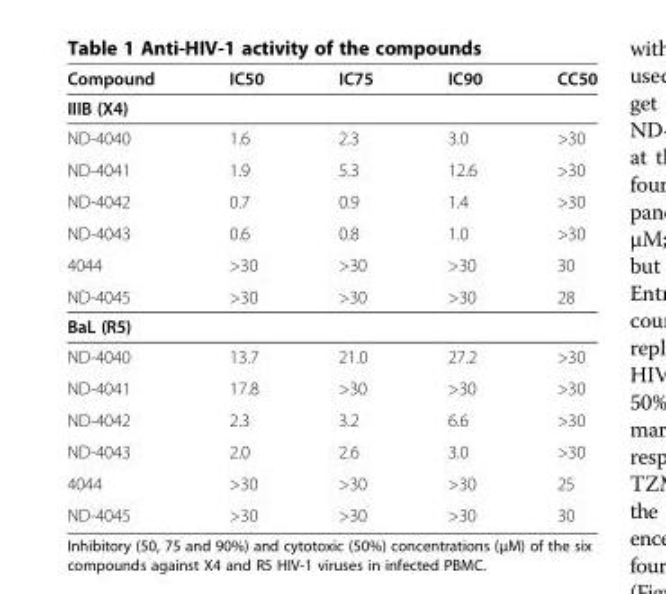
<table><thead><tr><td>Compound</td><td>IC50</td><td>IC75</td><td>IC90</td><td>CC50</td></tr></thead><tbody><tr><td colspan="5">IIIB (X4)</td></tr><tr><td>ND-4040</td><td>1.6</td><td>2.3</td><td>3.0</td><td>&gt;30</td></tr><tr><td>ND-4041</td><td>1.9</td><td>5.3</td><td>12.6</td><td>&gt;30</td></tr><tr><td>ND-4042</td><td>0.7</td><td>0.9</td><td>1.4</td><td>&gt;30</td></tr><tr><td>ND-4043</td><td>0.6</td><td>0.8</td><td>1.0</td><td>&gt;30</td></tr><tr><td>4044</td><td>&gt;30</td><td>&gt;30</td><td>&gt;30</td><td>30</td></tr><tr><td>ND-4045</td><td>&gt;30</td><td>&gt;30</td><td>&gt;30</td><td>28</td></tr><tr><td colspan="5">BaL (R5)</td></tr><tr><td>ND-4040</td><td>13.7</td><td>21.0</td><td>27.2</td><td>&gt;30</td></tr><tr><td>ND-4041</td><td>17.8</td><td>&gt;30</td><td>&gt;30</td><td>&gt;30</td></tr><tr><td>ND-4042</td><td>2.3</td><td>3.2</td><td>6.6</td><td>&gt;30</td></tr><tr><td>ND-4043</td><td>2.0</td><td>2.6</td><td>3.0</td><td>&gt;30</td></tr><tr><td>4044</td><td>&gt;30</td><td>&gt;30</td><td>&gt;30</td><td>25</td></tr><tr><td>ND-4045</td><td>&gt;30</td><td>&gt;30</td><td>&gt;30</td><td>30</td></tr></tbody></table>